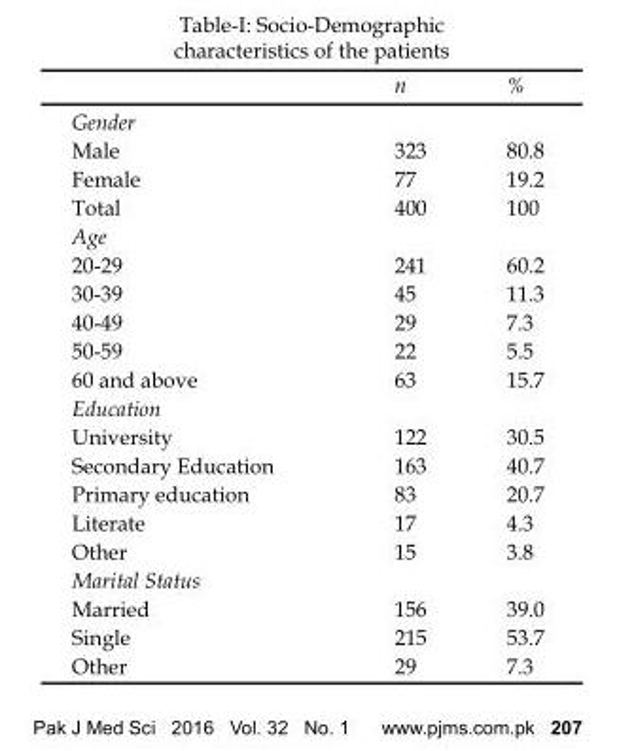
<table><thead><tr><td></td><td>n</td><td>%</td></tr></thead><tbody><tr><td colspan="3">Gender</td></tr><tr><td>Male</td><td>323</td><td>80.8</td></tr><tr><td>Female</td><td>77</td><td>19.2</td></tr><tr><td>Total</td><td>400</td><td>100</td></tr><tr><td colspan="3">Age</td></tr><tr><td>20-29</td><td>241</td><td>60.2</td></tr><tr><td>30-39</td><td>45</td><td>11.3</td></tr><tr><td>40-49</td><td>29</td><td>7.3</td></tr><tr><td>50-59</td><td>22</td><td>5.5</td></tr><tr><td>60 and above</td><td>63</td><td>15.7</td></tr><tr><td colspan="3">Education</td></tr><tr><td>University</td><td>122</td><td>30.5</td></tr><tr><td>Secondary Education</td><td>163</td><td>40.7</td></tr><tr><td>Primary education</td><td>83</td><td>20.7</td></tr><tr><td>Literate</td><td>17</td><td>4.3</td></tr><tr><td>Other</td><td>15</td><td>3.8</td></tr><tr><td colspan="3">Marital Status</td></tr><tr><td>Married</td><td>156</td><td>39.0</td></tr><tr><td>Single</td><td>215</td><td>53.7</td></tr><tr><td>Other</td><td>29</td><td>7.3</td></tr></tbody></table>